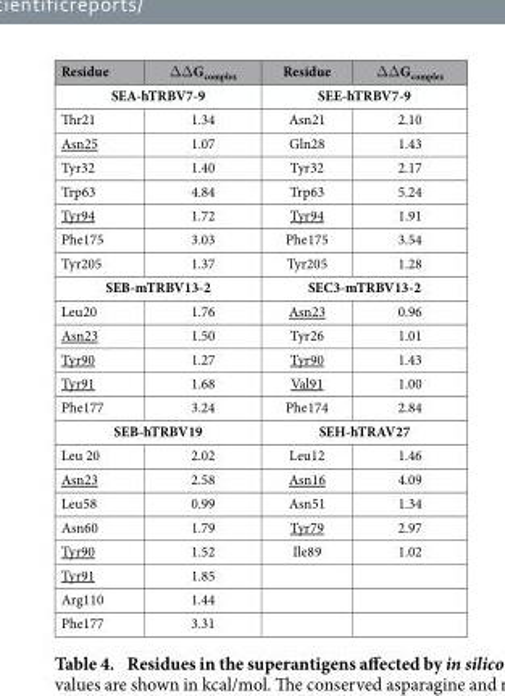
<table><thead><tr><td>Residue</td><td>Δ Δ G<sub>complex</sub></td><td>Residue</td><td>Δ Δ G<sub>complex</sub></td></tr><tr><td colspan="2">SEA-hTRBV7-9</td><td colspan="2">SEE-hTRBV7-9</td></tr></thead><tbody><tr><td>Thr21</td><td>1.34</td><td>Asn21</td><td>2.10</td></tr><tr><td>Asn25</td><td>1.07</td><td>Gln28</td><td>1.43</td></tr><tr><td>Tyr32</td><td>1.40</td><td>Tyr32</td><td>2.17</td></tr><tr><td>Trp63</td><td>4.84</td><td>Trp63</td><td>5.24</td></tr><tr><td>Tyr94</td><td>1.72</td><td>Tyr94</td><td>1.91</td></tr><tr><td>Phe175</td><td>3.03</td><td>Phe175</td><td>3.54</td></tr><tr><td>Tyr205</td><td>1.37</td><td>Tyr205</td><td>1.28</td></tr><tr><td colspan="2">SEB-mTRBV13-2</td><td colspan="2">SEC3-mTRBV13-2</td></tr><tr><td>Leu20</td><td>1.76</td><td>Asn23</td><td>0.96</td></tr><tr><td>Asn23</td><td>1.50</td><td>Tyr26</td><td>1.01</td></tr><tr><td>Tyr90</td><td>1.27</td><td>Tyr90</td><td>1.43</td></tr><tr><td>Tyr91</td><td>1.68</td><td>Val91</td><td>1.00</td></tr><tr><td>Phe177</td><td>3.24</td><td>Phe174</td><td>2.84</td></tr><tr><td colspan="2">SEB-hTRBV19</td><td colspan="2">SEH-hTRAV27</td></tr><tr><td>Leu 20</td><td>2.02</td><td>Leu12</td><td>1.46</td></tr><tr><td>Asn23</td><td>2.58</td><td>Asn16</td><td>4.09</td></tr><tr><td>Leu58</td><td>0.99</td><td>Asn51</td><td>1.34</td></tr><tr><td>Asn60</td><td>1.79</td><td>Tyr79</td><td>2.97</td></tr><tr><td>Tyr90</td><td>1.52</td><td>Ile89</td><td>1.02</td></tr><tr><td>Tyr91</td><td>1.85</td><td></td><td></td></tr><tr><td>Arg110</td><td>1.44</td><td></td><td></td></tr><tr><td>Phe177</td><td>3.31</td><td></td><td></td></tr></tbody></table>